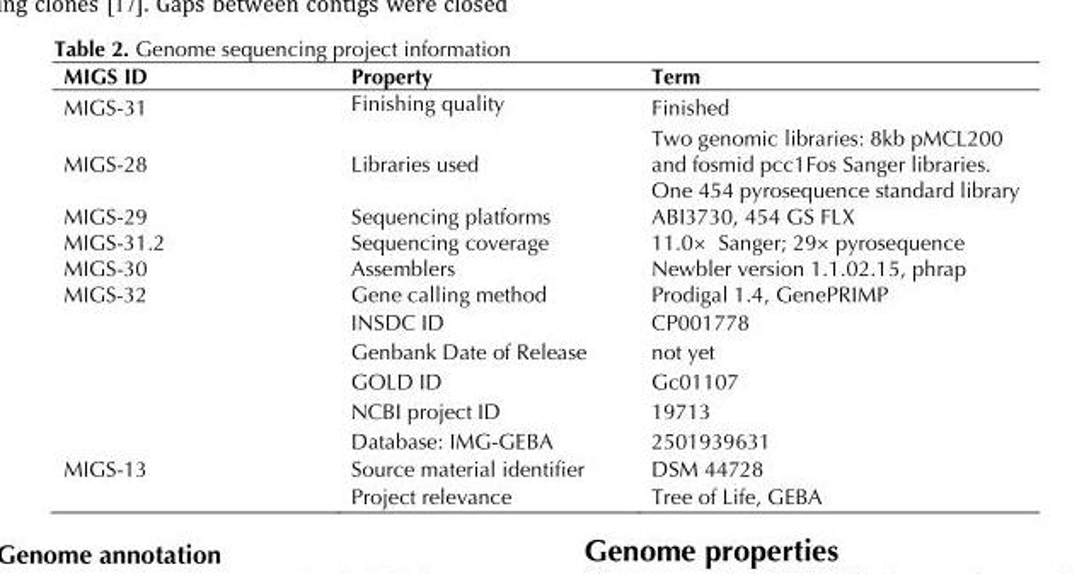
<table><thead><tr><td>MIGS ID</td><td>Property</td><td>Term</td></tr></thead><tbody><tr><td>MIGS-31</td><td>Finishing quality</td><td>Finished</td></tr><tr><td>MIGS-28</td><td>Libraries used</td><td>Two genomic libraries: 8kb pMCL200 and fosmid pcc1Fos Sanger libraries. One 454 pyrosequence standard library</td></tr><tr><td>MIGS-29</td><td>Sequencing platforms</td><td>ABI3730, 454 GS FLX</td></tr><tr><td>MIGS-31.2</td><td>Sequencing coverage</td><td>11.0× Sanger; 29× pyrosequence</td></tr><tr><td>MIGS-30</td><td>Assemblers</td><td>Newbler version 1.1.02.15, phrap</td></tr><tr><td rowspan="6">MIGS-32</td><td>Gene calling method</td><td>Prodigal 1.4, GenePRIMP</td></tr><tr><td>INSDC ID</td><td>CP001778</td></tr><tr><td>Genbank Date of Release</td><td>not yet</td></tr><tr><td>GOLD ID</td><td>Gc01107</td></tr><tr><td>NCBI project ID</td><td>19713</td></tr><tr><td>Database: IMG-GEBA</td><td>2501939631</td></tr><tr><td rowspan="2">MIGS-13</td><td>Source material identifier</td><td>DSM 44728</td></tr><tr><td>Project relevance</td><td>Tree of Life, GEBA</td></tr></tbody></table>